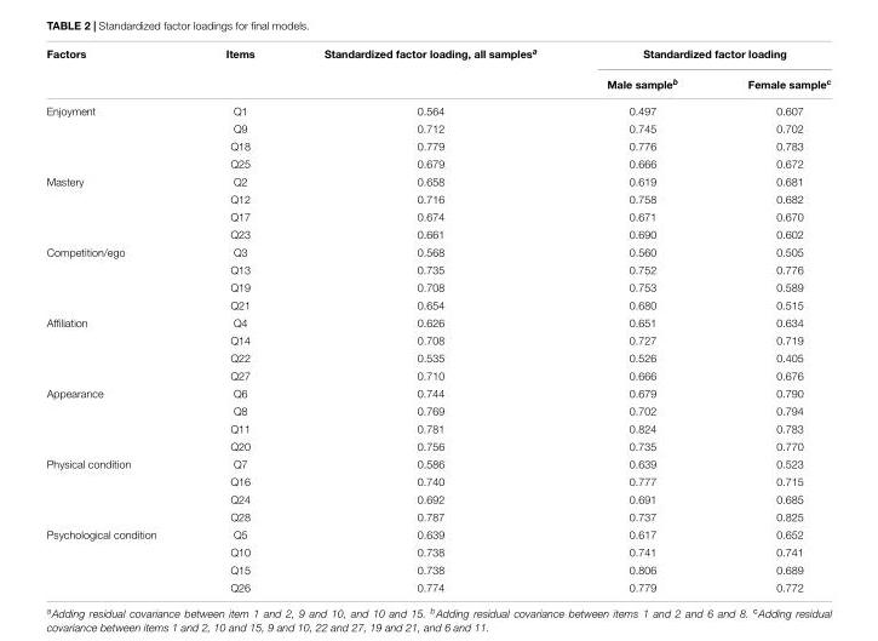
<table><thead><tr><td rowspan="2">Factors</td><td rowspan="2">Items</td><td rowspan="2">Standardized factor loading, all samples<sup>a</sup></td><td colspan="2">Standardized factor loading</td></tr><tr><td>Male sample<sup>b</sup></td><td>Female sample<sup>c</sup></td></tr></thead><tbody><tr><td rowspan="4">Enjoyment</td><td>Q1</td><td>0.564</td><td>0.497</td><td>0.607</td></tr><tr><td>Q9</td><td>0.712</td><td>0.745</td><td>0.702</td></tr><tr><td>Q18</td><td>0.779</td><td>0.776</td><td>0.783</td></tr><tr><td>Q25</td><td>0.679</td><td>0.666</td><td>0.672</td></tr><tr><td rowspan="4">Mastery</td><td>Q2</td><td>0.658</td><td>0.619</td><td>0.681</td></tr><tr><td>Q12</td><td>0.716</td><td>0.758</td><td>0.682</td></tr><tr><td>Q17</td><td>0.674</td><td>0.671</td><td>0.670</td></tr><tr><td>Q23</td><td>0.661</td><td>0.690</td><td>0.602</td></tr><tr><td rowspan="4">Competition/ego</td><td>Q3</td><td>0.568</td><td>0.560</td><td>0.505</td></tr><tr><td>Q13</td><td>0.735</td><td>0.752</td><td>0.776</td></tr><tr><td>Q19</td><td>0.708</td><td>0.753</td><td>0.589</td></tr><tr><td>Q21</td><td>0.654</td><td>0.680</td><td>0.515</td></tr><tr><td rowspan="4">Affiliation</td><td>Q4</td><td>0.626</td><td>0.651</td><td>0.634</td></tr><tr><td>Q14</td><td>0.708</td><td>0.727</td><td>0.719</td></tr><tr><td>Q22</td><td>0.535</td><td>0.526</td><td>0.405</td></tr><tr><td>Q27</td><td>0.710</td><td>0.666</td><td>0.676</td></tr><tr><td rowspan="4">Appearance</td><td>Q6</td><td>0.744</td><td>0.679</td><td>0.790</td></tr><tr><td>Q8</td><td>0.769</td><td>0.702</td><td>0.794</td></tr><tr><td>Q11</td><td>0.781</td><td>0.824</td><td>0.783</td></tr><tr><td>Q20</td><td>0.756</td><td>0.735</td><td>0.770</td></tr><tr><td rowspan="4">Physical condition</td><td>Q7</td><td>0.586</td><td>0.639</td><td>0.523</td></tr><tr><td>Q16</td><td>0.740</td><td>0.777</td><td>0.715</td></tr><tr><td>Q24</td><td>0.692</td><td>0.691</td><td>0.685</td></tr><tr><td>Q28</td><td>0.787</td><td>0.737</td><td>0.825</td></tr><tr><td rowspan="4">Psychological condition</td><td>Q5</td><td>0.639</td><td>0.617</td><td>0.652</td></tr><tr><td>Q10</td><td>0.738</td><td>0.741</td><td>0.741</td></tr><tr><td>Q15</td><td>0.738</td><td>0.806</td><td>0.689</td></tr><tr><td>Q26</td><td>0.774</td><td>0.779</td><td>0.772</td></tr></tbody></table>